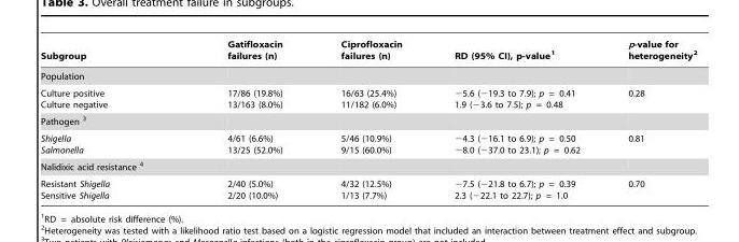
<table><thead><tr><td>Subgroup</td><td>Gatifloxacin failures (n)</td><td>Ciprofloxacin failures (n)</td><td>RD (95% CI), p-value1</td><td>p-value for heterogeneity2</td></tr></thead><tbody><tr><td colspan="5">Population</td></tr><tr><td>Culture positive Culture negative</td><td>17/86 (19.8%) 13/163 (8.0%)</td><td>16/63 (25.4%) 11/182 (6.0%)</td><td>−5.6 (−19.3 to 7.9); p = 0.41 1.9 (−3.6 to 7.5); p = 0.48</td><td>0.28</td></tr><tr><td colspan="5">Pathogen 3</td></tr><tr><td>Shigella Salmonella</td><td>4/61 (6.6%) 13/25 (52.0%)</td><td>5/46 (10.9%) 9/15 (60.0%)</td><td>−4.3 (−16.1 to 6.9); p = 0.50 −8.0 (−37.0 to 23.1); p = 0.62</td><td>0.81</td></tr><tr><td colspan="5">Nalidixic acid resistance 4</td></tr><tr><td>Resistant Shigella Sensitive Shigella</td><td>2/40 (5.0%) 2/20 (10.0%)</td><td>4/32 (12.5%) 1/13 (7.7%)</td><td>−7.5 (−21.8 to 6.7); p = 0.39 2.3 (−22.1 to 22.7); p = 1.0</td><td>0.70</td></tr></tbody></table>